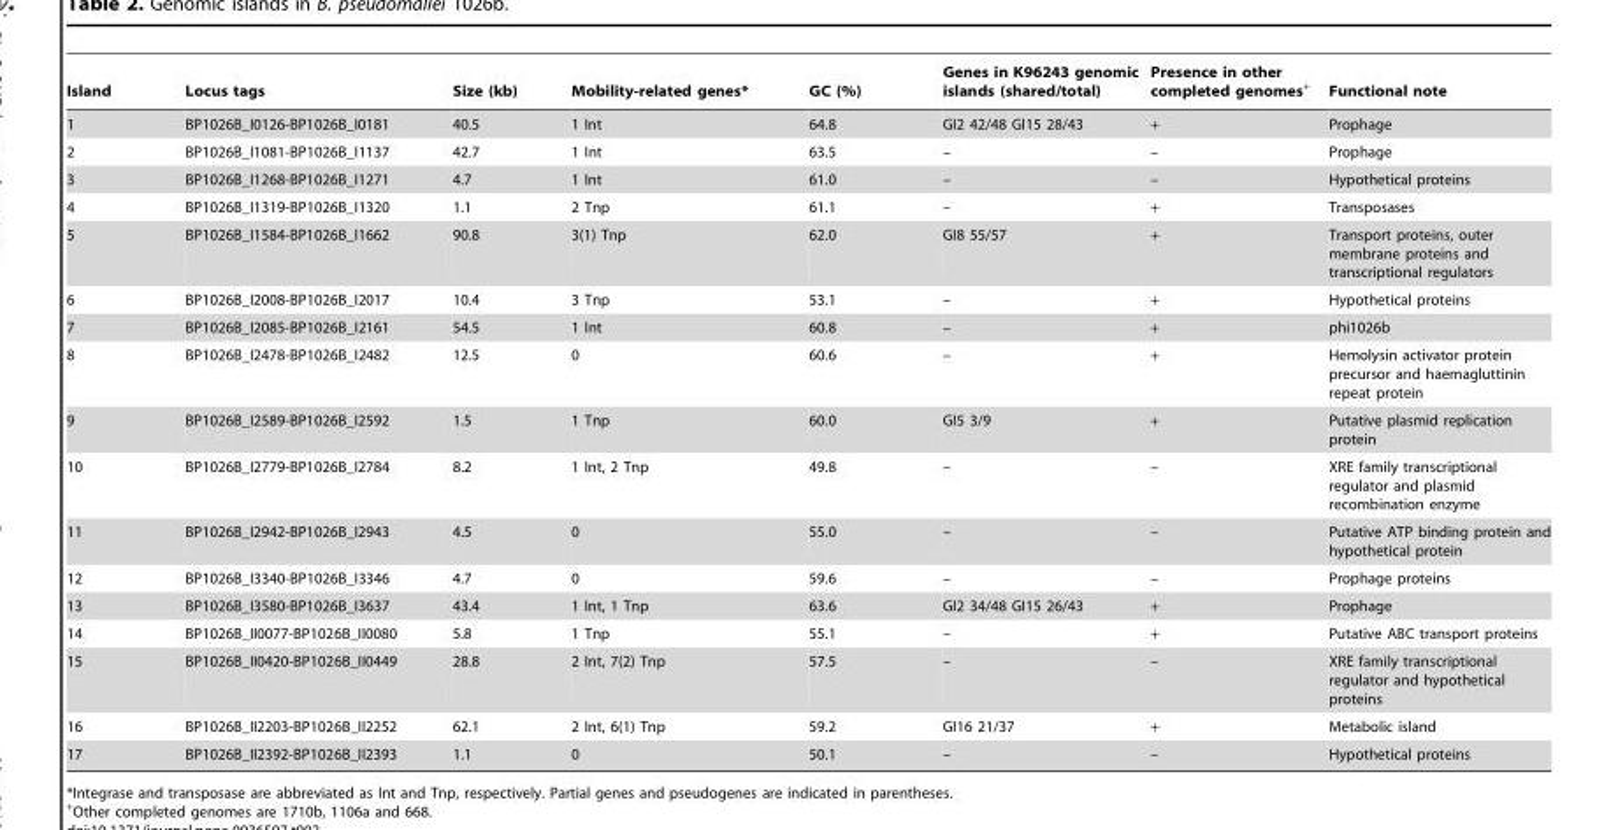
<table><thead><tr><td>Island</td><td>Locus tags</td><td>Size (kb)</td><td>Mobility-related genes*</td><td>GC (%)</td><td>Genes in K96243 genomic islands (shared/total)</td><td>Presence in other completed genomes+</td><td>Functional note</td></tr></thead><tbody><tr><td>1</td><td>BP1026B_I0126-BP1026B_I0181</td><td>40.5</td><td>1 Int</td><td>64.8</td><td>GI2 42/48 GI15 28/43</td><td>+</td><td>Prophage</td></tr><tr><td>2</td><td>BP1026B_I1081-BP1026B_I1137</td><td>42.7</td><td>1 Int</td><td>63.5</td><td>–</td><td>–</td><td>Prophage</td></tr><tr><td>3</td><td>BP1026B_I1268-BP1026B_I1271</td><td>4.7</td><td>1 Int</td><td>61.0</td><td>–</td><td>–</td><td>Hypothetical proteins</td></tr><tr><td>4</td><td>BP1026B_I1319-BP1026B_I1320</td><td>1.1</td><td>2 Tnp</td><td>61.1</td><td>–</td><td>+</td><td>Transposases</td></tr><tr><td>5</td><td>BP1026B_I1584-BP1026B_I1662</td><td>90.8</td><td>3(1) Tnp</td><td>62.0</td><td>GI8 55/57</td><td>+</td><td>Transport proteins, outer membrane proteins and transcriptional regulators</td></tr><tr><td>6</td><td>BP1026B_I2008-BP1026B_I2017</td><td>10.4</td><td>3 Tnp</td><td>53.1</td><td>–</td><td>+</td><td>Hypothetical proteins</td></tr><tr><td>7</td><td>BP1026B_I2085-BP1026B_I2161</td><td>54.5</td><td>1 Int</td><td>60.8</td><td>–</td><td>+</td><td>phi1026b</td></tr><tr><td>8</td><td>BP1026B_I2478-BP1026B_I2482</td><td>12.5</td><td>0</td><td>60.6</td><td>–</td><td>+</td><td>Hemolysin activator protein precursor and haemagluttinin repeat protein</td></tr><tr><td>9</td><td>BP1026B_I2589-BP1026B_I2592</td><td>1.5</td><td>1 Tnp</td><td>60.0</td><td>GI5 3/9</td><td>+</td><td>Putative plasmid replication protein</td></tr><tr><td>10</td><td>BP1026B_I2779-BP1026B_I2784</td><td>8.2</td><td>1 Int, 2 Tnp</td><td>49.8</td><td>–</td><td>–</td><td>XRE family transcriptional regulator and plasmid recombination enzyme</td></tr><tr><td>11</td><td>BP1026B_I2942-BP1026B_I2943</td><td>4.5</td><td>0</td><td>55.0</td><td>–</td><td>–</td><td>Putative ATP binding protein and hypothetical protein</td></tr><tr><td>12</td><td>BP1026B_I3340-BP1026B_I3346</td><td>4.7</td><td>0</td><td>59.6</td><td>–</td><td>–</td><td>Prophage proteins</td></tr><tr><td>13</td><td>BP1026B_I3580-BP1026B_I3637</td><td>43.4</td><td>1 Int, 1 Tnp</td><td>63.6</td><td>GI2 34/48 GI15 26/43</td><td>+</td><td>Prophage</td></tr><tr><td>14</td><td>BP1026B_II0077-BP1026B_II0080</td><td>5.8</td><td>1 Tnp</td><td>55.1</td><td>–</td><td>+</td><td>Putative ABC transport proteins</td></tr><tr><td>15</td><td>BP1026B_II0420-BP1026B_II0449</td><td>28.8</td><td>2 Int, 7(2) Tnp</td><td>57.5</td><td>–</td><td>–</td><td>XRE family transcriptional regulator and hypothetical proteins</td></tr><tr><td>16</td><td>BP1026B_II2203-BP1026B_II2252</td><td>62.1</td><td>2 Int, 6(1) Tnp</td><td>59.2</td><td>GI16 21/37</td><td>+</td><td>Metabolic island</td></tr><tr><td>17</td><td>BP1026B_II2392-BP1026B_II2393</td><td>1.1</td><td>0</td><td>50.1</td><td>–</td><td>–</td><td>Hypothetical proteins</td></tr></tbody></table>